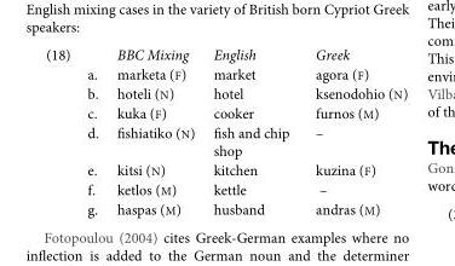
<table><tbody><tr><td rowspan="8">(18)</td><td></td><td>BBC Mixing</td><td>English</td><td>Greek</td></tr><tr><td>a.</td><td>marketa (F)</td><td>market</td><td>agora (F)</td></tr><tr><td>b.</td><td>hoteli (N)</td><td>hotel</td><td>ksenodohio (N)</td></tr><tr><td>c.</td><td>kuka (F)</td><td>cooker</td><td>furnos (M)</td></tr><tr><td>d.</td><td>fishiatiko (N)</td><td>fish and chip shop</td><td>–</td></tr><tr><td>e.</td><td>kitsi (N)</td><td>kitchen</td><td>kuzina (F)</td></tr><tr><td>f.</td><td>ketlos (M)</td><td>kettle</td><td>–</td></tr><tr><td>g.</td><td>haspas (M)</td><td>husband</td><td>andras (M)</td></tr></tbody></table>